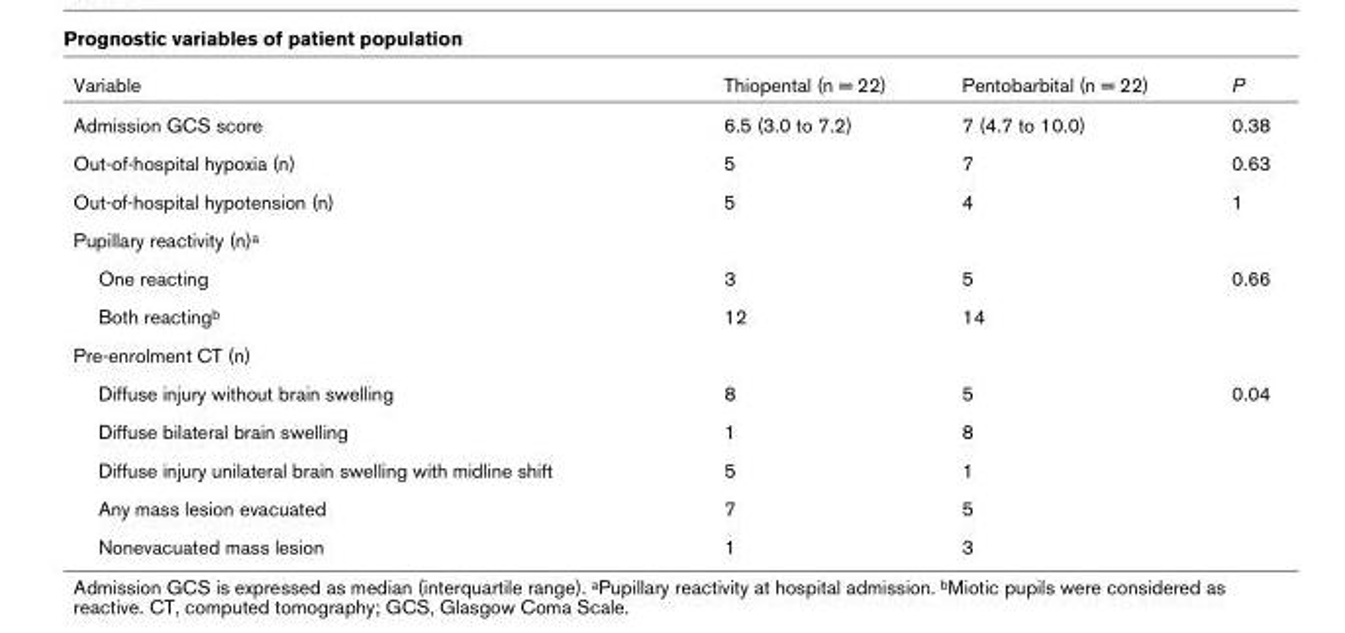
<table><thead><tr><td>Variable</td><td>Thiopental (n = 22)</td><td>Pentobarbital (n = 22)</td><td>P</td></tr></thead><tbody><tr><td>Admission GCS score</td><td>6.5 (3.0 to 7.2)</td><td>7 (4.7 to 10.0)</td><td>0.38</td></tr><tr><td>Out-of-hospital hypoxia (n)</td><td>5</td><td>7</td><td>0.63</td></tr><tr><td>Out-of-hospital hypotension (n)</td><td>5</td><td>4</td><td>1</td></tr><tr><td colspan="4">Pupillary reactivity (n)<sup>a</sup></td></tr><tr><td>One reacting</td><td>3</td><td>5</td><td>0.66</td></tr><tr><td>Both reacting<sup>b</sup></td><td>12</td><td>14</td><td></td></tr><tr><td colspan="4">Pre-enrolment CT (n)</td></tr><tr><td>Diffuse injury without brain swelling</td><td>8</td><td>5</td><td>0.04</td></tr><tr><td>Diffuse bilateral brain swelling</td><td>1</td><td>8</td><td></td></tr><tr><td>Diffuse injury unilateral brain swelling with midline shift</td><td>5</td><td>1</td><td></td></tr><tr><td>Any mass lesion evacuated</td><td>7</td><td>5</td><td></td></tr><tr><td>Nonevacuated mass lesion</td><td>1</td><td>3</td><td></td></tr></tbody></table>